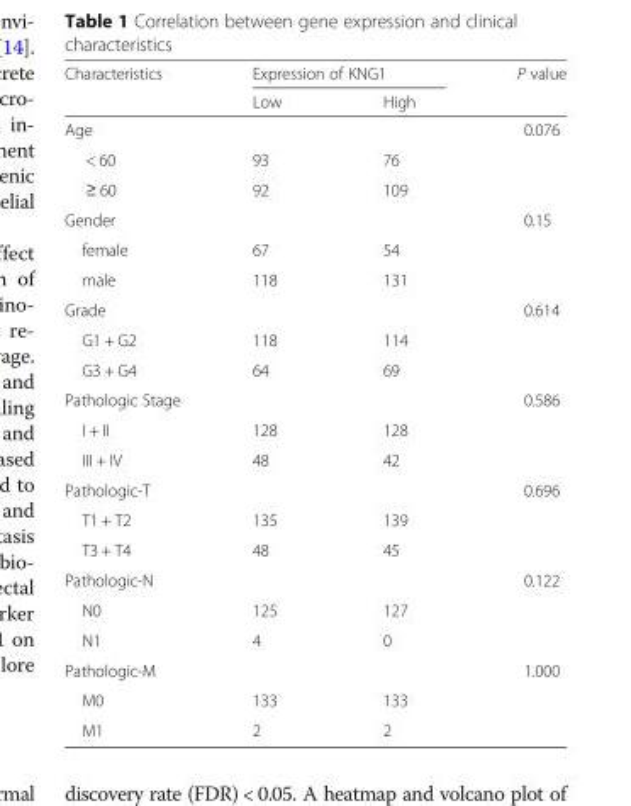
<table><thead><tr><td rowspan="2">Characteristics</td><td colspan="2">Expression of KNG1</td><td rowspan="2">P value</td></tr><tr><td>Low</td><td>High</td></tr></thead><tbody><tr><td>Age</td><td></td><td></td><td>0.076</td></tr><tr><td>&lt; 60</td><td>93</td><td>76</td><td></td></tr><tr><td>≥ 60</td><td>92</td><td>109</td><td></td></tr><tr><td>Gender</td><td></td><td></td><td>0.15</td></tr><tr><td>female</td><td>67</td><td>54</td><td></td></tr><tr><td>male</td><td>118</td><td>131</td><td></td></tr><tr><td>Grade</td><td></td><td></td><td>0.614</td></tr><tr><td>G1 + G2</td><td>118</td><td>114</td><td></td></tr><tr><td>G3 + G4</td><td>64</td><td>69</td><td></td></tr><tr><td>Pathologic Stage</td><td></td><td></td><td>0.586</td></tr><tr><td>I + II</td><td>128</td><td>128</td><td></td></tr><tr><td>III + IV</td><td>48</td><td>42</td><td></td></tr><tr><td>Pathologic-T</td><td></td><td></td><td>0.696</td></tr><tr><td>T1 + T2</td><td>135</td><td>139</td><td></td></tr><tr><td>T3 + T4</td><td>48</td><td>45</td><td></td></tr><tr><td>Pathologic-N</td><td></td><td></td><td>0.122</td></tr><tr><td>N0</td><td>125</td><td>127</td><td></td></tr><tr><td>N1</td><td>4</td><td>0</td><td></td></tr><tr><td>Pathologic-M</td><td></td><td></td><td>1.000</td></tr><tr><td>M0</td><td>133</td><td>133</td><td></td></tr><tr><td>M1</td><td>2</td><td>2</td><td></td></tr></tbody></table>